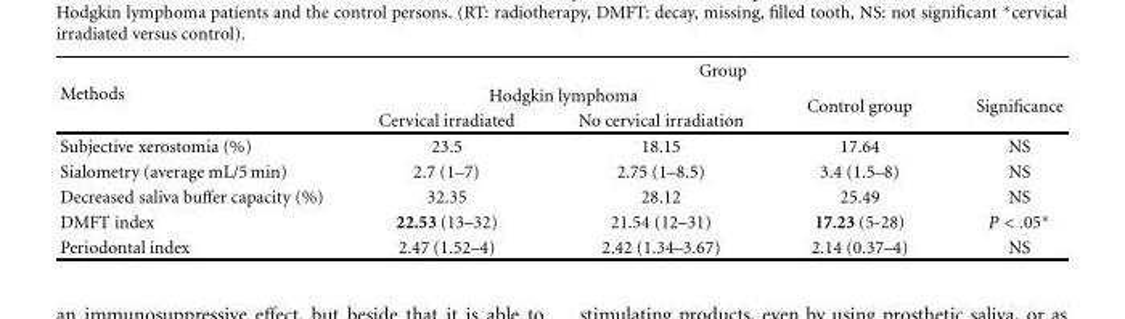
<table><thead><tr><td rowspan="3">Methods</td><td colspan="4">Group</td></tr><tr><td colspan="2">Hodgkin lymphoma</td><td rowspan="2">Control group</td><td rowspan="2">Significance</td></tr><tr><td>Cervical irradiated</td><td>No cervical irradiation</td></tr></thead><tbody><tr><td>Subjective xerostomia (%)</td><td>23.5</td><td>18.15</td><td>17.64</td><td>NS</td></tr><tr><td>Sialometry (average mL/5 min)</td><td>2.7 (1–7)</td><td>2.75 (1–8.5)</td><td>3.4 (1.5–8)</td><td>NS</td></tr><tr><td>Decreased saliva buffer capacity (%)</td><td>32.35</td><td>28.12</td><td>25.49</td><td>NS</td></tr><tr><td>DMFT index</td><td>22.53 (13–32)</td><td>21.54 (12–31)</td><td>17.23 (5-28)</td><td>P &lt; .05∗</td></tr><tr><td>Periodontal index</td><td>2.47 (1.52–4)</td><td>2.42 (1.34–3.67)</td><td>2.14 (0.37–4)</td><td>NS</td></tr></tbody></table>